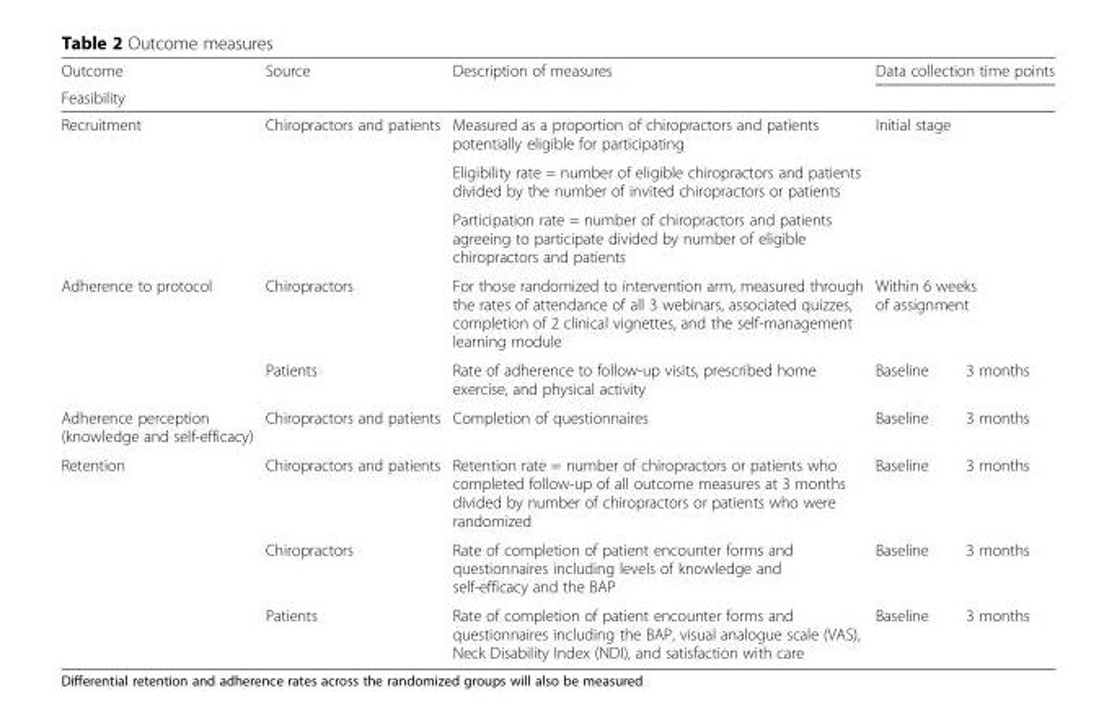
<table><thead><tr><td rowspan="2">Outcome Feasibility</td><td rowspan="2">Source</td><td rowspan="2">Description of measures</td><td colspan="2">Data collection time points</td></tr><tr><td></td><td></td></tr></thead><tbody><tr><td rowspan="3">Recruitment</td><td rowspan="3">Chiropractors and patients</td><td>Measured as a proportion of chiropractors and patients potentially eligible for participating</td><td rowspan="3" colspan="2">Initial stage</td></tr><tr><td>Eligibility rate = number of eligible chiropractors and patients divided by the number of invited chiropractors or patients</td></tr><tr><td>Participation rate = number of chiropractors and patients agreeing to participate divided by number of eligible chiropractors and patients</td></tr><tr><td rowspan="2">Adherence to protocol</td><td>Chiropractors</td><td>For those randomized to intervention arm, measured through the rates of attendance of all 3 webinars, associated quizzes, completion of 2 clinical vignettes, and the self-management learning module</td><td colspan="2">Within 6 weeks of assignment</td></tr><tr><td>Patients</td><td>Rate of adherence to follow-up visits, prescribed home exercise, and physical activity</td><td>Baseline</td><td>3 months</td></tr><tr><td>Adherence perception (knowledge and self-efficacy)</td><td>Chiropractors and patients</td><td>Completion of questionnaires</td><td>Baseline</td><td>3 months</td></tr><tr><td rowspan="3">Retention</td><td>Chiropractors and patients</td><td>Retention rate = number of chiropractors or patients who completed follow-up of all outcome measures at 3 months divided by number of chiropractors or patients who were randomized</td><td>Baseline</td><td>3 months</td></tr><tr><td>Chiropractors</td><td>Rate of completion of patient encounter forms and questionnaires including levels of knowledge and self-efficacy and the BAP</td><td>Baseline</td><td>3 months</td></tr><tr><td>Patients</td><td>Rate of completion of patient encounter forms and questionnaires including the BAP, visual analogue scale (VAS), Neck Disability Index (NDI), and satisfaction with care</td><td>Baseline</td><td>3 months</td></tr></tbody></table>